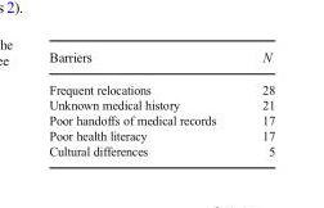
<table><thead><tr><td>Barriers</td><td>N</td></tr></thead><tbody><tr><td>Frequent relocations</td><td>28</td></tr><tr><td>Unknown medical history</td><td>21</td></tr><tr><td>Poor handoffs of medical records</td><td>17</td></tr><tr><td>Poor health literacy</td><td>17</td></tr><tr><td>Cultural differences</td><td>5</td></tr></tbody></table>